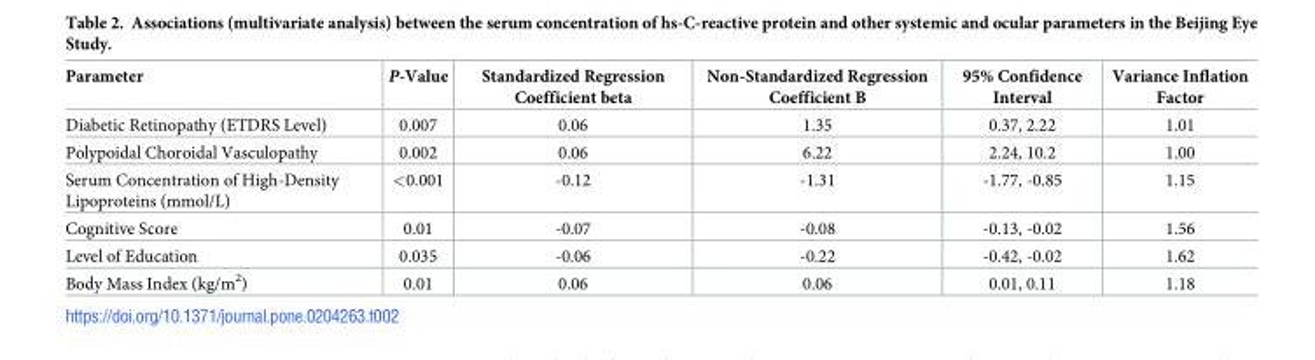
<table><thead><tr><td>Parameter</td><td>P-Value</td><td>Standardized Regression Coefficient beta</td><td>Non-Standardized Regression Coefficient B</td><td>95% Confidence Interval</td><td>Variance Inflation Factor</td></tr></thead><tbody><tr><td>Diabetic Retinopathy (ETDRS Level)</td><td>0.007</td><td>0.06</td><td>1.35</td><td>0.37, 2.22</td><td>1.01</td></tr><tr><td>Polypoidal Choroidal Vasculopathy</td><td>0.002</td><td>0.06</td><td>6.22</td><td>2.24, 10.2</td><td>1.00</td></tr><tr><td>Serum Concentration of High-Density Lipoproteins (mmol/L)</td><td>&lt;0.001</td><td>-0.12</td><td>-1.31</td><td>-1.77, -0.85</td><td>1.15</td></tr><tr><td>Cognitive Score</td><td>0.01</td><td>-0.07</td><td>-0.08</td><td>-0.13, -0.02</td><td>1.56</td></tr><tr><td>Level of Education</td><td>0.035</td><td>-0.06</td><td>-0.22</td><td>-0.42, -0.02</td><td>1.62</td></tr><tr><td>Body Mass Index (kg/m<sup>2</sup>)</td><td>0.01</td><td>0.06</td><td>0.06</td><td>0.01, 0.11</td><td>1.18</td></tr></tbody></table>